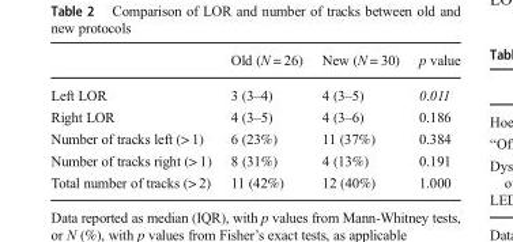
<table><thead><tr><td></td><td>Old (N = 26)</td><td>New (N = 30)</td><td>p value</td></tr></thead><tbody><tr><td>Left LOR</td><td>3 (3–4)</td><td>4 (3–5)</td><td>0.011</td></tr><tr><td>Right LOR</td><td>4 (3–5)</td><td>4 (3–6)</td><td>0.186</td></tr><tr><td>Number of tracks left (&gt; 1)</td><td>6 (23%)</td><td>11 (37%)</td><td>0.384</td></tr><tr><td>Number of tracks right (&gt; 1)</td><td>8 (31%)</td><td>4 (13%)</td><td>0.191</td></tr><tr><td>Total number of tracks (&gt; 2)</td><td>11 (42%)</td><td>12 (40%)</td><td>1.000</td></tr></tbody></table>